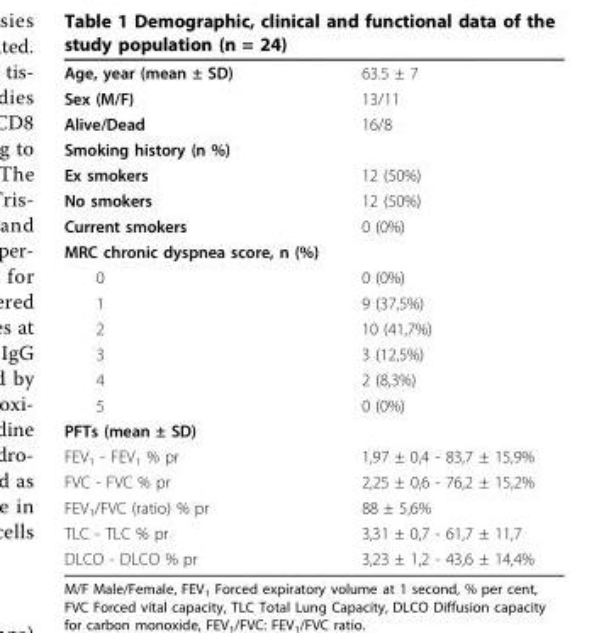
<table><tbody><tr><td>Age, year (mean ± SD)</td><td>63.5 ± 7</td></tr><tr><td>Sex (M/F)</td><td>13/11</td></tr><tr><td>Alive/Dead</td><td>16/8</td></tr><tr><td colspan="2">Smoking history (n %)</td></tr><tr><td>Ex smokers</td><td>12 (50%)</td></tr><tr><td>No smokers</td><td>12 (50%)</td></tr><tr><td>Current smokers</td><td>0 (0%)</td></tr><tr><td colspan="2">MRC chronic dyspnea score, n (%)</td></tr><tr><td>0</td><td>0 (0%)</td></tr><tr><td>1</td><td>9 (37,5%)</td></tr><tr><td>2</td><td>10 (41,7%)</td></tr><tr><td>3</td><td>3 (12,5%)</td></tr><tr><td>4</td><td>2 (8,3%)</td></tr><tr><td>5</td><td>0 (0%)</td></tr><tr><td colspan="2">PFTs (mean ± SD)</td></tr><tr><td>FEV<sub>1</sub> - FEV<sub>1</sub> % pr</td><td>1,97 ± 0,4 - 83,7 ± 15,9%</td></tr><tr><td>FVC - FVC % pr</td><td>2,25 ± 0,6 - 76,2 ± 15,2%</td></tr><tr><td>FEV<sub>1</sub>/FVC (ratio) % pr</td><td>88 ± 5,6%</td></tr><tr><td>TLC - TLC % pr</td><td>3,31 ± 0,7 - 61,7 ± 11,7</td></tr><tr><td>DLCO - DLCO % pr</td><td>3,23 ± 1,2 - 43,6 ± 14,4%</td></tr></tbody></table>